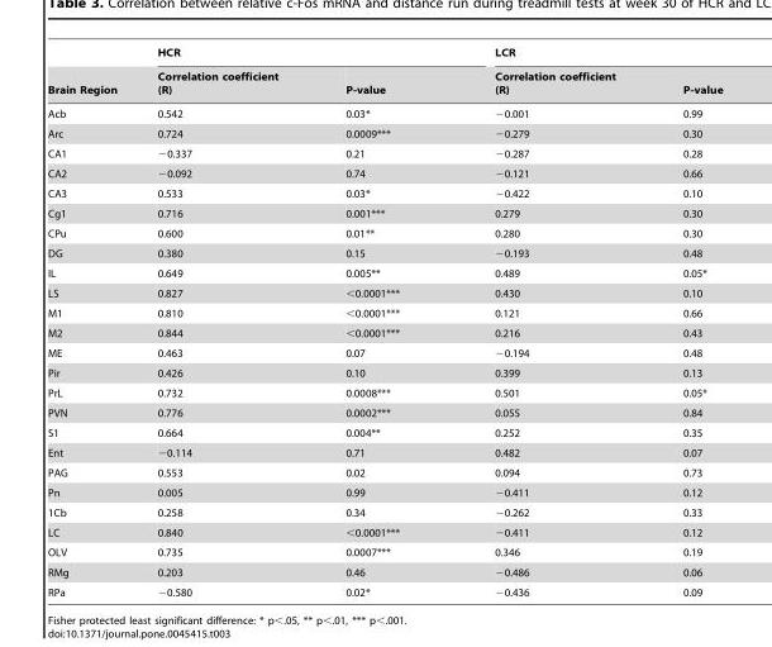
<table><thead><tr><td rowspan="2">Brain Region</td><td colspan="2">HCR</td><td colspan="2">LCR</td></tr><tr><td>Correlation coefficient (R)</td><td>P-value</td><td>Correlation coefficient (R)</td><td>P-value</td></tr></thead><tbody><tr><td>Acb</td><td>0.542</td><td>0.03*</td><td>−0.001</td><td>0.99</td></tr><tr><td>Arc</td><td>0.724</td><td>0.0009***</td><td>−0.279</td><td>0.30</td></tr><tr><td>CA1</td><td>−0.337</td><td>0.21</td><td>−0.287</td><td>0.28</td></tr><tr><td>CA2</td><td>−0.092</td><td>0.74</td><td>−0.121</td><td>0.66</td></tr><tr><td>CA3</td><td>0.533</td><td>0.03*</td><td>−0.422</td><td>0.10</td></tr><tr><td>Cg1</td><td>0.716</td><td>0.001***</td><td>0.279</td><td>0.30</td></tr><tr><td>CPu</td><td>0.600</td><td>0.01**</td><td>0.280</td><td>0.30</td></tr><tr><td>DG</td><td>0.380</td><td>0.15</td><td>−0.193</td><td>0.48</td></tr><tr><td>IL</td><td>0.649</td><td>0.005**</td><td>0.489</td><td>0.05*</td></tr><tr><td>LS</td><td>0.827</td><td>&lt;0.0001***</td><td>0.430</td><td>0.10</td></tr><tr><td>M1</td><td>0.810</td><td>&lt;0.0001***</td><td>0.121</td><td>0.66</td></tr><tr><td>M2</td><td>0.844</td><td>&lt;0.0001***</td><td>0.216</td><td>0.43</td></tr><tr><td>ME</td><td>0.463</td><td>0.07</td><td>−0.194</td><td>0.48</td></tr><tr><td>Pir</td><td>0.426</td><td>0.10</td><td>0.399</td><td>0.13</td></tr><tr><td>PrL</td><td>0.732</td><td>0.0008***</td><td>0.501</td><td>0.05*</td></tr><tr><td>PVN</td><td>0.776</td><td>0.0002***</td><td>0.055</td><td>0.84</td></tr><tr><td>S1</td><td>0.664</td><td>0.004**</td><td>0.252</td><td>0.35</td></tr><tr><td>Ent</td><td>−0.114</td><td>0.71</td><td>0.482</td><td>0.07</td></tr><tr><td>PAG</td><td>0.553</td><td>0.02</td><td>0.094</td><td>0.73</td></tr><tr><td>Pn</td><td>0.005</td><td>0.99</td><td>−0.411</td><td>0.12</td></tr><tr><td>1Cb</td><td>0.258</td><td>0.34</td><td>−0.262</td><td>0.33</td></tr><tr><td>LC</td><td>0.840</td><td>&lt;0.0001***</td><td>−0.411</td><td>0.12</td></tr><tr><td>OLV</td><td>0.735</td><td>0.0007***</td><td>0.346</td><td>0.19</td></tr><tr><td>RMg</td><td>0.203</td><td>0.46</td><td>−0.486</td><td>0.06</td></tr><tr><td>RPa</td><td>−0.580</td><td>0.02*</td><td>−0.436</td><td>0.09</td></tr></tbody></table>